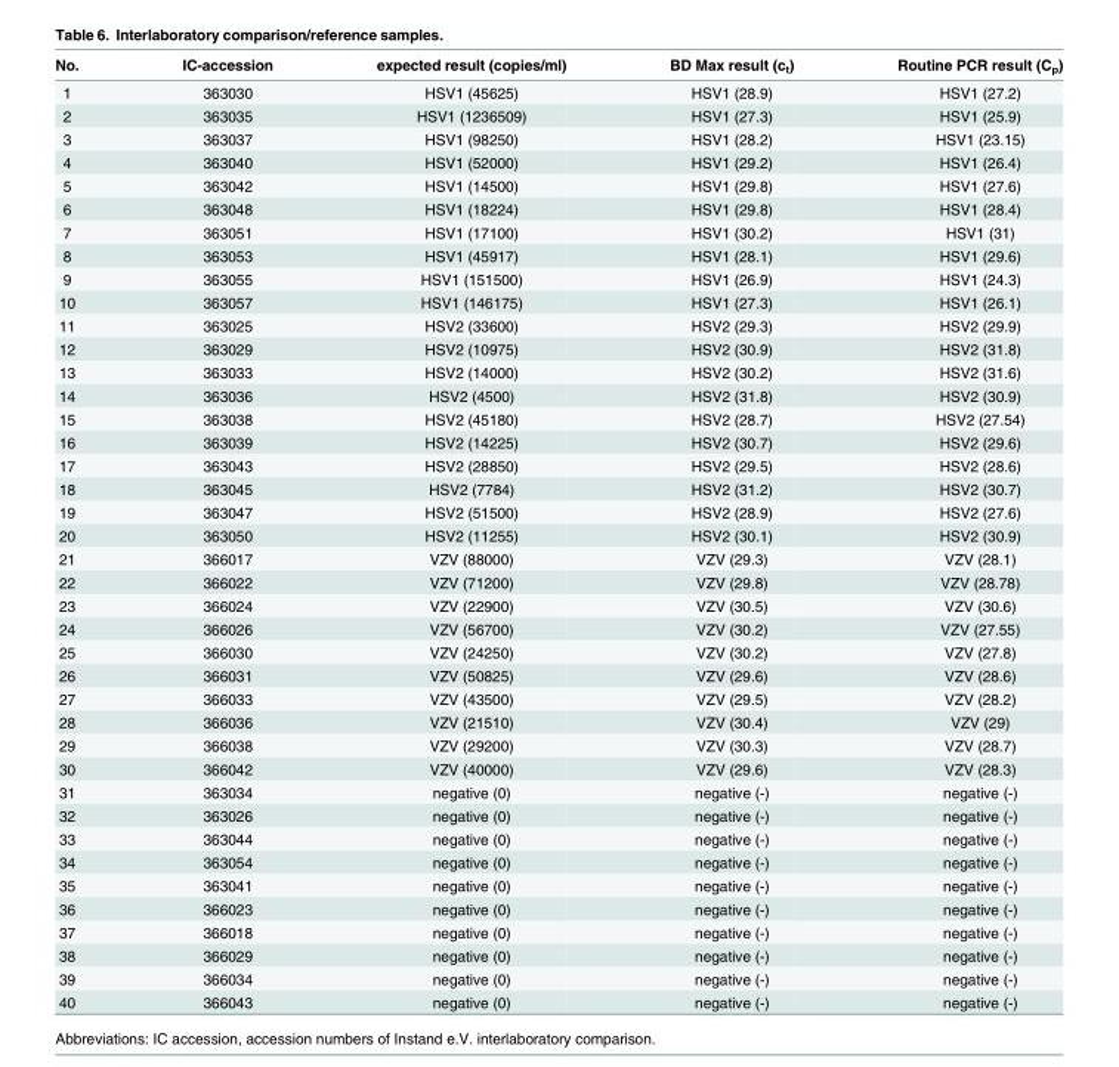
<table><thead><tr><td>No.</td><td>IC-accession</td><td>expected result (copies/ml)</td><td>BD Max result (c<sub>t</sub>)</td><td>Routine PCR result (C<sub>p</sub>)</td></tr></thead><tbody><tr><td>1</td><td>363030</td><td>HSV1 (45625)</td><td>HSV1 (28.9)</td><td>HSV1 (27.2)</td></tr><tr><td>2</td><td>363035</td><td>HSV1 (1236509)</td><td>HSV1 (27.3)</td><td>HSV1 (25.9)</td></tr><tr><td>3</td><td>363037</td><td>HSV1 (98250)</td><td>HSV1 (28.2)</td><td>HSV1 (23.15)</td></tr><tr><td>4</td><td>363040</td><td>HSV1 (52000)</td><td>HSV1 (29.2)</td><td>HSV1 (26.4)</td></tr><tr><td>5</td><td>363042</td><td>HSV1 (14500)</td><td>HSV1 (29.8)</td><td>HSV1 (27.6)</td></tr><tr><td>6</td><td>363048</td><td>HSV1 (18224)</td><td>HSV1 (29.8)</td><td>HSV1 (28.4)</td></tr><tr><td>7</td><td>363051</td><td>HSV1 (17100)</td><td>HSV1 (30.2)</td><td>HSV1 (31)</td></tr><tr><td>8</td><td>363053</td><td>HSV1 (45917)</td><td>HSV1 (28.1)</td><td>HSV1 (29.6)</td></tr><tr><td>9</td><td>363055</td><td>HSV1 (151500)</td><td>HSV1 (26.9)</td><td>HSV1 (24.3)</td></tr><tr><td>10</td><td>363057</td><td>HSV1 (146175)</td><td>HSV1 (27.3)</td><td>HSV1 (26.1)</td></tr><tr><td>11</td><td>363025</td><td>HSV2 (33600)</td><td>HSV2 (29.3)</td><td>HSV2 (29.9)</td></tr><tr><td>12</td><td>363029</td><td>HSV2 (10975)</td><td>HSV2 (30.9)</td><td>HSV2 (31.8)</td></tr><tr><td>13</td><td>363033</td><td>HSV2 (14000)</td><td>HSV2 (30.2)</td><td>HSV2 (31.6)</td></tr><tr><td>14</td><td>363036</td><td>HSV2 (4500)</td><td>HSV2 (31.8)</td><td>HSV2 (30.9)</td></tr><tr><td>15</td><td>363038</td><td>HSV2 (45180)</td><td>HSV2 (28.7)</td><td>HSV2 (27.54)</td></tr><tr><td>16</td><td>363039</td><td>HSV2 (14225)</td><td>HSV2 (30.7)</td><td>HSV2 (29.6)</td></tr><tr><td>17</td><td>363043</td><td>HSV2 (28850)</td><td>HSV2 (29.5)</td><td>HSV2 (28.6)</td></tr><tr><td>18</td><td>363045</td><td>HSV2 (7784)</td><td>HSV2 (31.2)</td><td>HSV2 (30.7)</td></tr><tr><td>19</td><td>363047</td><td>HSV2 (51500)</td><td>HSV2 (28.9)</td><td>HSV2 (27.6)</td></tr><tr><td>20</td><td>363050</td><td>HSV2 (11255)</td><td>HSV2 (30.1)</td><td>HSV2 (30.9)</td></tr><tr><td>21</td><td>366017</td><td>VZV (88000)</td><td>VZV (29.3)</td><td>VZV (28.1)</td></tr><tr><td>22</td><td>366022</td><td>VZV (71200)</td><td>VZV (29.8)</td><td>VZV (28.78)</td></tr><tr><td>23</td><td>366024</td><td>VZV (22900)</td><td>VZV (30.5)</td><td>VZV (30.6)</td></tr><tr><td>24</td><td>366026</td><td>VZV (56700)</td><td>VZV (30.2)</td><td>VZV (27.55)</td></tr><tr><td>25</td><td>366030</td><td>VZV (24250)</td><td>VZV (30.2)</td><td>VZV (27.8)</td></tr><tr><td>26</td><td>366031</td><td>VZV (50825)</td><td>VZV (29.6)</td><td>VZV (28.6)</td></tr><tr><td>27</td><td>366033</td><td>VZV (43500)</td><td>VZV (29.5)</td><td>VZV (28.2)</td></tr><tr><td>28</td><td>366036</td><td>VZV (21510)</td><td>VZV (30.4)</td><td>VZV (29)</td></tr><tr><td>29</td><td>366038</td><td>VZV (29200)</td><td>VZV (30.3)</td><td>VZV (28.7)</td></tr><tr><td>30</td><td>366042</td><td>VZV (40000)</td><td>VZV (29.6)</td><td>VZV (28.3)</td></tr><tr><td>31</td><td>363034</td><td>negative (0)</td><td>negative (-)</td><td>negative (-)</td></tr><tr><td>32</td><td>363026</td><td>negative (0)</td><td>negative (-)</td><td>negative (-)</td></tr><tr><td>33</td><td>363044</td><td>negative (0)</td><td>negative (-)</td><td>negative (-)</td></tr><tr><td>34</td><td>363054</td><td>negative (0)</td><td>negative (-)</td><td>negative (-)</td></tr><tr><td>35</td><td>363041</td><td>negative (0)</td><td>negative (-)</td><td>negative (-)</td></tr><tr><td>36</td><td>366023</td><td>negative (0)</td><td>negative (-)</td><td>negative (-)</td></tr><tr><td>37</td><td>366018</td><td>negative (0)</td><td>negative (-)</td><td>negative (-)</td></tr><tr><td>38</td><td>366029</td><td>negative (0)</td><td>negative (-)</td><td>negative (-)</td></tr><tr><td>39</td><td>366034</td><td>negative (0)</td><td>negative (-)</td><td>negative (-)</td></tr><tr><td>40</td><td>366043</td><td>negative (0)</td><td>negative (-)</td><td>negative (-)</td></tr></tbody></table>